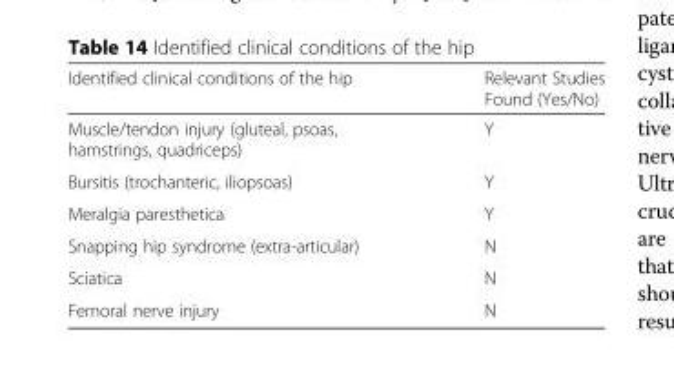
<table><thead><tr><td>Identified clinical conditions of the hip</td><td>Relevant Studies Found (Yes/No)</td></tr></thead><tbody><tr><td>Muscle/tendon injury (gluteal, psoas, hamstrings, quadriceps)</td><td>Y</td></tr><tr><td>Bursitis (trochanteric, iliopsoas)</td><td>Y</td></tr><tr><td>Meralgia paresthetica</td><td>Y</td></tr><tr><td>Snapping hip syndrome (extra-articular)</td><td>N</td></tr><tr><td>Sciatica</td><td>N</td></tr><tr><td>Femoral nerve injury</td><td>N</td></tr></tbody></table>